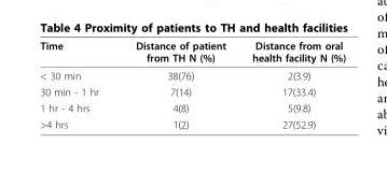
<table><thead><tr><td>Time</td><td>Distance of patient from TH N (%)</td><td>Distance from oral health facility N (%)</td></tr></thead><tbody><tr><td>&lt; 30 min</td><td>38(76)</td><td>2(3.9)</td></tr><tr><td>30 min - 1 hr</td><td>7(14)</td><td>17(33.4)</td></tr><tr><td>1 hr - 4 hrs</td><td>4(8)</td><td>5(9.8)</td></tr><tr><td>&gt;4 hrs</td><td>1(2)</td><td>27(52.9)</td></tr></tbody></table>